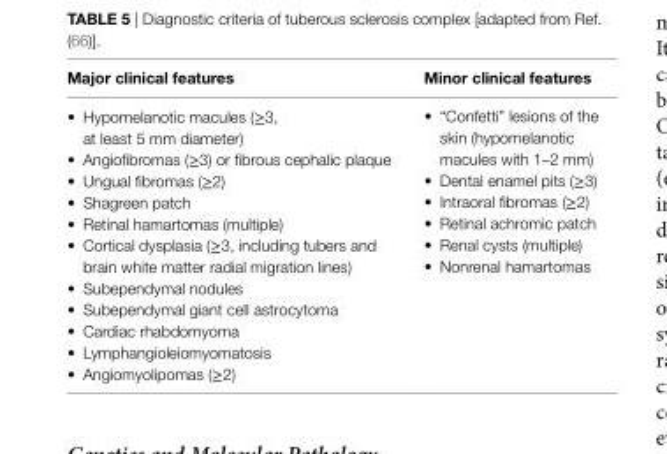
<table><thead><tr><td>Major clinical features</td><td>Minor clinical features</td></tr></thead><tbody><tr><td>• Hypomelanotic macules (≥3, at least 5 mm diameter) • Angiofibromas (≥3) or fibrous cephalic plaque • Ungual fibromas (≥2) • Shagreen patch • Retinal hamartomas (multiple) • Cortical dysplasia (≥3, including tubers and brain white matter radial migration lines) • Subependymal nodules • Subependymal giant cell astrocytoma • Cardiac rhabdomyoma • Lymphangioleiomyomatosis • Angiomyolipomas (≥2)</td><td>• “Confetti” lesions of the skin (hypomelanotic macules with 1–2 mm) • Dental enamel pits (≥3) • Intraoral fibromas (≥2) • Retinal achromic patch • Renal cysts (multiple) • Nonrenal hamartomas</td></tr></tbody></table>